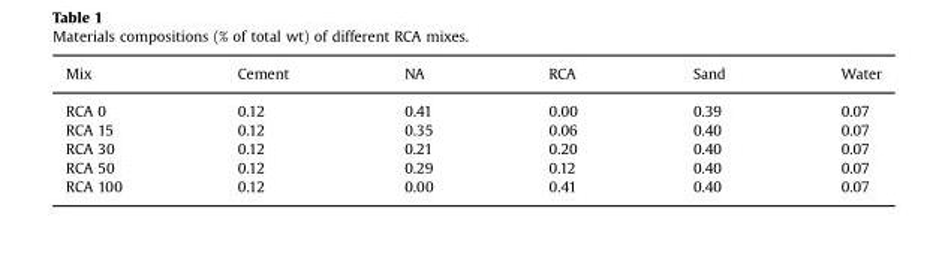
<table><thead><tr><td>Mix</td><td>Cement</td><td>NA</td><td>RCA</td><td>Sand</td><td>Water</td></tr></thead><tbody><tr><td>RCA 0</td><td>0.12</td><td>0.41</td><td>0.00</td><td>0.39</td><td>0.07</td></tr><tr><td>RCA 15</td><td>0.12</td><td>0.35</td><td>0.06</td><td>0.40</td><td>0.07</td></tr><tr><td>RCA 30</td><td>0.12</td><td>0.21</td><td>0.20</td><td>0.40</td><td>0.07</td></tr><tr><td>RCA 50</td><td>0.12</td><td>0.29</td><td>0.12</td><td>0.40</td><td>0.07</td></tr><tr><td>RCA 100</td><td>0.12</td><td>0.00</td><td>0.41</td><td>0.40</td><td>0.07</td></tr></tbody></table>